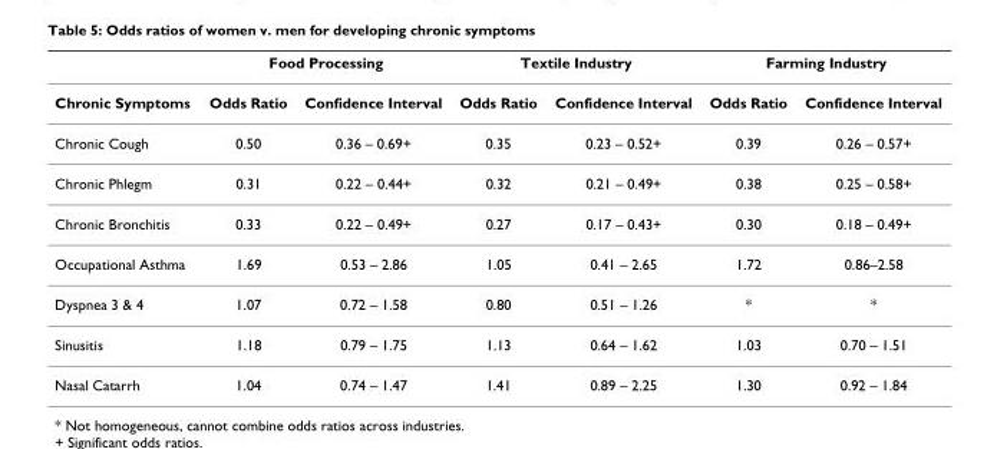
<table><thead><tr><td rowspan="2">Chronic Symptoms</td><td colspan="2">Food Processing</td><td colspan="2">Textile Industry</td><td colspan="2">Farming Industry</td></tr><tr><td>Odds Ratio</td><td>Confidence Interval</td><td>Odds Ratio</td><td>Confidence Interval</td><td>Odds Ratio</td><td>Confidence Interval</td></tr></thead><tbody><tr><td>Chronic Cough</td><td>0.50</td><td>0.36 – 0.69+</td><td>0.35</td><td>0.23 – 0.52+</td><td>0.39</td><td>0.26 – 0.57+</td></tr><tr><td>Chronic Phlegm</td><td>0.31</td><td>0.22 – 0.44+</td><td>0.32</td><td>0.21 – 0.49+</td><td>0.38</td><td>0.25 – 0.58+</td></tr><tr><td>Chronic Bronchitis</td><td>0.33</td><td>0.22 – 0.49+</td><td>0.27</td><td>0.17 – 0.43+</td><td>0.30</td><td>0.18 – 0.49+</td></tr><tr><td>Occupational Asthma</td><td>1.69</td><td>0.53 – 2.86</td><td>1.05</td><td>0.41 – 2.65</td><td>1.72</td><td>0.86–2.58</td></tr><tr><td>Dyspnea 3 &amp; 4</td><td>1.07</td><td>0.72 – 1.58</td><td>0.80</td><td>0.51 – 1.26</td><td>*</td><td>*</td></tr><tr><td>Sinusitis</td><td>1.18</td><td>0.79 – 1.75</td><td>1.13</td><td>0.64 – 1.62</td><td>1.03</td><td>0.70 – 1.51</td></tr><tr><td>Nasal Catarrh</td><td>1.04</td><td>0.74 – 1.47</td><td>1.41</td><td>0.89 – 2.25</td><td>1.30</td><td>0.92 – 1.84</td></tr></tbody></table>